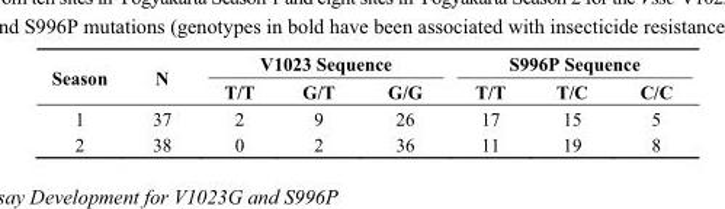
<table><thead><tr><td rowspan="2">Season</td><td rowspan="2">N</td><td colspan="3">V1023 Sequence</td><td colspan="3">S996P Sequence</td></tr><tr><td>T/T</td><td>G/T</td><td>G/G</td><td>T/T</td><td>T/C</td><td>C/C</td></tr></thead><tbody><tr><td>1</td><td>37</td><td>2</td><td>9</td><td>26</td><td>17</td><td>15</td><td>5</td></tr><tr><td>2</td><td>38</td><td>0</td><td>2</td><td>36</td><td>11</td><td>19</td><td>8</td></tr></tbody></table>